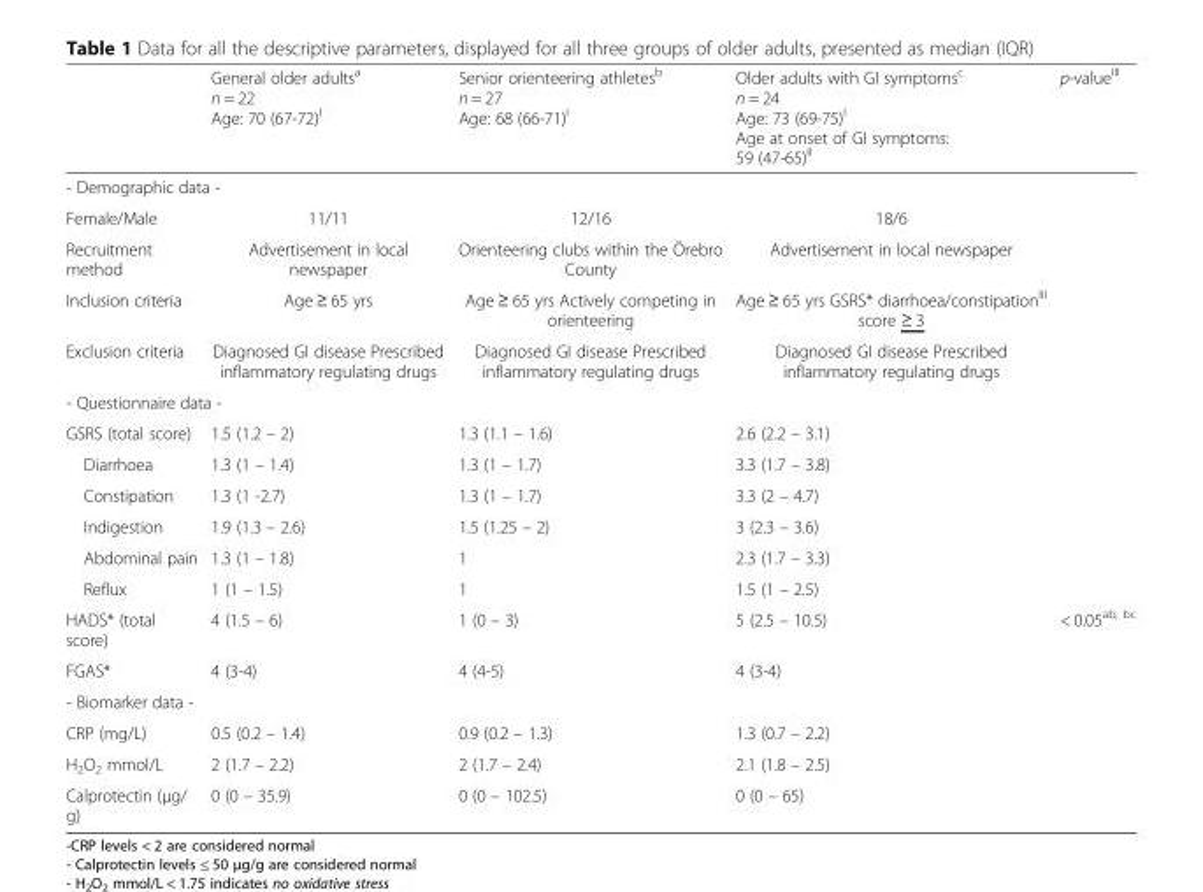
<table><thead><tr><td></td><td>General older adults<sup>a</sup> n = 22 Age: 70 (67-72)<sup>I</sup></td><td>Senior orienteering athletes<sup>b</sup> n = 27 Age: 68 (66-71)<sup>I</sup></td><td>Older adults with GI symptoms<sup>c</sup> n = 24 Age: 73 (69-75)<sup>I</sup> Age at onset of GI symptoms: 59 (47-65)<sup>II</sup></td><td>p-value<sup>III</sup></td></tr></thead><tbody><tr><td colspan="5">- Demographic data -</td></tr><tr><td>Female/Male</td><td>11/11</td><td>12/16</td><td>18/6</td><td></td></tr><tr><td>Recruitment method</td><td>Advertisement in local newspaper</td><td>Orienteering clubs within the Örebro County</td><td>Advertisement in local newspaper</td><td></td></tr><tr><td>Inclusion criteria</td><td>Age ≥ 65 yrs</td><td>Age ≥ 65 yrs Actively competing in orienteering</td><td>Age ≥ 65 yrs GSRS* diarrhoea/constipation<sup>III</sup> score ≥ 3</td><td></td></tr><tr><td>Exclusion criteria</td><td>Diagnosed GI disease Prescribed inflammatory regulating drugs</td><td>Diagnosed GI disease Prescribed inflammatory regulating drugs</td><td>Diagnosed GI disease Prescribed inflammatory regulating drugs</td><td></td></tr><tr><td colspan="5">- Questionnaire data -</td></tr><tr><td>GSRS (total score)</td><td>1.5 (1.2 – 2)</td><td>1.3 (1.1 – 1.6)</td><td>2.6 (2.2 – 3.1)</td><td></td></tr><tr><td>Diarrhoea</td><td>1.3 (1 – 1.4)</td><td>1.3 (1 – 1.7)</td><td>3.3 (1.7 – 3.8)</td><td></td></tr><tr><td>Constipation</td><td>1.3 (1 -2.7)</td><td>1.3 (1 – 1.7)</td><td>3.3 (2 – 4.7)</td><td></td></tr><tr><td>Indigestion</td><td>1.9 (1.3 – 2.6)</td><td>1.5 (1.25 – 2)</td><td>3 (2.3 – 3.6)</td><td></td></tr><tr><td>Abdominal pain</td><td>1.3 (1 – 1.8)</td><td>1</td><td>2.3 (1.7 – 3.3)</td><td></td></tr><tr><td>Reflux</td><td>1 (1 – 1.5)</td><td>1</td><td>1.5 (1 – 2.5)</td><td></td></tr><tr><td>HADS* (total score)</td><td>4 (1.5 – 6)</td><td>1 (0 – 3)</td><td>5 (2.5 – 10.5)</td><td>&lt; 0.05<sup>ab, bc</sup></td></tr><tr><td>FGAS*</td><td>4 (3-4)</td><td>4 (4-5)</td><td>4 (3-4)</td><td></td></tr><tr><td colspan="5">- Biomarker data -</td></tr><tr><td>CRP (mg/L)</td><td>0.5 (0.2 – 1.4)</td><td>0.9 (0.2 – 1.3)</td><td>1.3 (0.7 – 2.2)</td><td></td></tr><tr><td>H<sub>2</sub>O<sub>2</sub> mmol/L</td><td>2 (1.7 – 2.2)</td><td>2 (1.7 – 2.4)</td><td>2.1 (1.8 – 2.5)</td><td></td></tr><tr><td>Calprotectin (μg/ g)</td><td>0 (0 – 35.9)</td><td>0 (0 – 102.5)</td><td>0 (0 – 65)</td><td></td></tr></tbody></table>